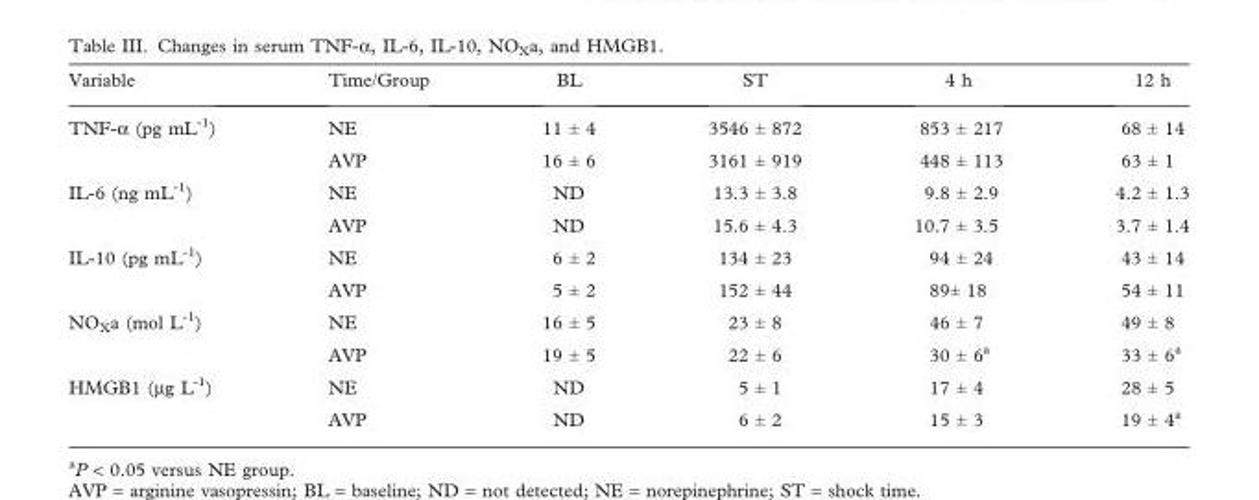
<table><thead><tr><td>Variable</td><td>Time/Group</td><td>BL</td><td>ST</td><td>4 h</td><td>12 h</td></tr></thead><tbody><tr><td rowspan="2">TNF-α (pg mL<sup>-1</sup>)</td><td>NE</td><td>11 ± 4</td><td>3546 ± 872</td><td>853 ± 217</td><td>68 ± 14</td></tr><tr><td>AVP</td><td>16 ± 6</td><td>3161 ± 919</td><td>448 ± 113</td><td>63 ± 1</td></tr><tr><td rowspan="2">IL-6 (ng mL<sup>-1</sup>)</td><td>NE</td><td>ND</td><td>13.3 ± 3.8</td><td>9.8 ± 2.9</td><td>4.2 ± 1.3</td></tr><tr><td>AVP</td><td>ND</td><td>15.6 ± 4.3</td><td>10.7 ± 3.5</td><td>3.7 ± 1.4</td></tr><tr><td rowspan="2">IL-10 (pg mL<sup>-1</sup>)</td><td>NE</td><td>6 ± 2</td><td>134 ± 23</td><td>94 ± 24</td><td>43 ± 14</td></tr><tr><td>AVP</td><td>5 ± 2</td><td>152 ± 44</td><td>89± 18</td><td>54 ± 11</td></tr><tr><td rowspan="2">NO<sub>X</sub>a (mol L<sup>-1</sup>)</td><td>NE</td><td>16 ± 5</td><td>23 ± 8</td><td>46 ± 7</td><td>49 ± 8</td></tr><tr><td>AVP</td><td>19 ± 5</td><td>22 ± 6</td><td>30 ± 6<sup>a</sup></td><td>33 ± 6<sup>a</sup></td></tr><tr><td rowspan="2">HMGB1 (μg L<sup>-1</sup>)</td><td>NE</td><td>ND</td><td>5 ± 1</td><td>17 ± 4</td><td>28 ± 5</td></tr><tr><td>AVP</td><td>ND</td><td>6 ± 2</td><td>15 ± 3</td><td>19 ± 4<sup>a</sup></td></tr></tbody></table>